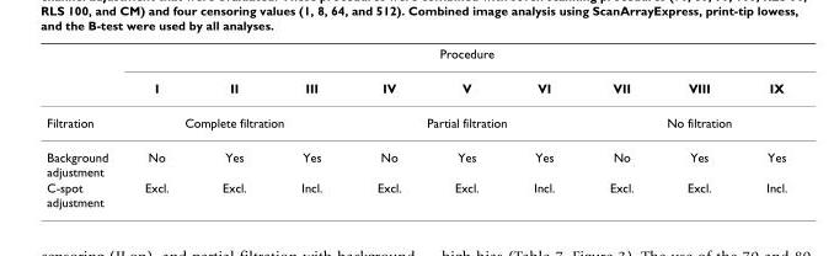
<table><thead><tr><td rowspan="2"></td><td colspan="9">Procedure</td></tr><tr><td>I</td><td>II</td><td>III</td><td>IV</td><td>V</td><td>VI</td><td>VII</td><td>VIII</td><td>IX</td></tr></thead><tbody><tr><td>Filtration</td><td colspan="3">Complete filtration</td><td colspan="3">Partial filtration</td><td colspan="3">No filtration</td></tr><tr><td>Background adjustment</td><td>No</td><td>Yes</td><td>Yes</td><td>No</td><td>Yes</td><td>Yes</td><td>No</td><td>Yes</td><td>Yes</td></tr><tr><td>C-spot adjustment</td><td>Excl.</td><td>Excl.</td><td>Incl.</td><td>Excl.</td><td>Excl.</td><td>Incl.</td><td>Excl.</td><td>Excl.</td><td>Incl.</td></tr></tbody></table>